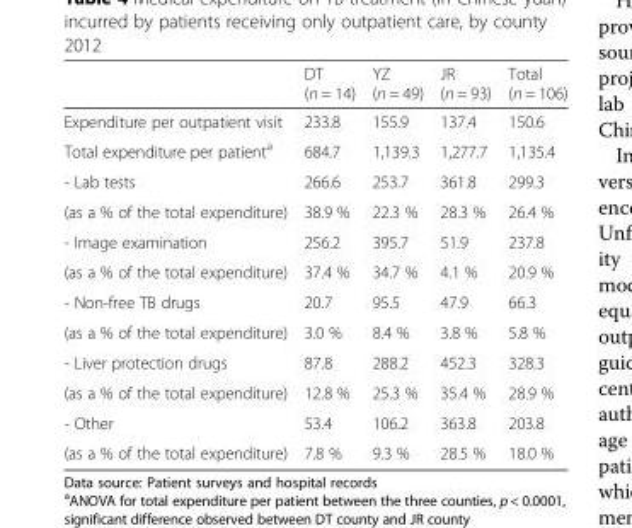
<table><thead><tr><td></td><td>DT (n = 14)</td><td>YZ (n = 49)</td><td>JR (n = 93)</td><td>Total (n = 106)</td></tr></thead><tbody><tr><td>Expenditure per outpatient visit</td><td>233.8</td><td>155.9</td><td>137.4</td><td>150.6</td></tr><tr><td>Total expenditure per patient<sup>a</sup></td><td>684.7</td><td>1,139.3</td><td>1,277.7</td><td>1,135.4</td></tr><tr><td>- Lab tests</td><td>266.6</td><td>253.7</td><td>361.8</td><td>299.3</td></tr><tr><td>(as a % of the total expenditure)</td><td>38.9 %</td><td>22.3 %</td><td>28.3 %</td><td>26.4 %</td></tr><tr><td>- Image examination</td><td>256.2</td><td>395.7</td><td>51.9</td><td>237.8</td></tr><tr><td>(as a % of the total expenditure)</td><td>37.4 %</td><td>34.7 %</td><td>4.1 %</td><td>20.9 %</td></tr><tr><td>- Non-free TB drugs</td><td>20.7</td><td>95.5</td><td>47.9</td><td>66.3</td></tr><tr><td>(as a % of the total expenditure)</td><td>3.0 %</td><td>8.4 %</td><td>3.8 %</td><td>5.8 %</td></tr><tr><td>- Liver protection drugs</td><td>87.8</td><td>288.2</td><td>452.3</td><td>328.3</td></tr><tr><td>(as a % of the total expenditure)</td><td>12.8 %</td><td>25.3 %</td><td>35.4 %</td><td>28.9 %</td></tr><tr><td>- Other</td><td>53.4</td><td>106.2</td><td>363.8</td><td>203.8</td></tr><tr><td>(as a % of the total expenditure)</td><td>7.8 %</td><td>9.3 %</td><td>28.5 %</td><td>18.0 %</td></tr></tbody></table>